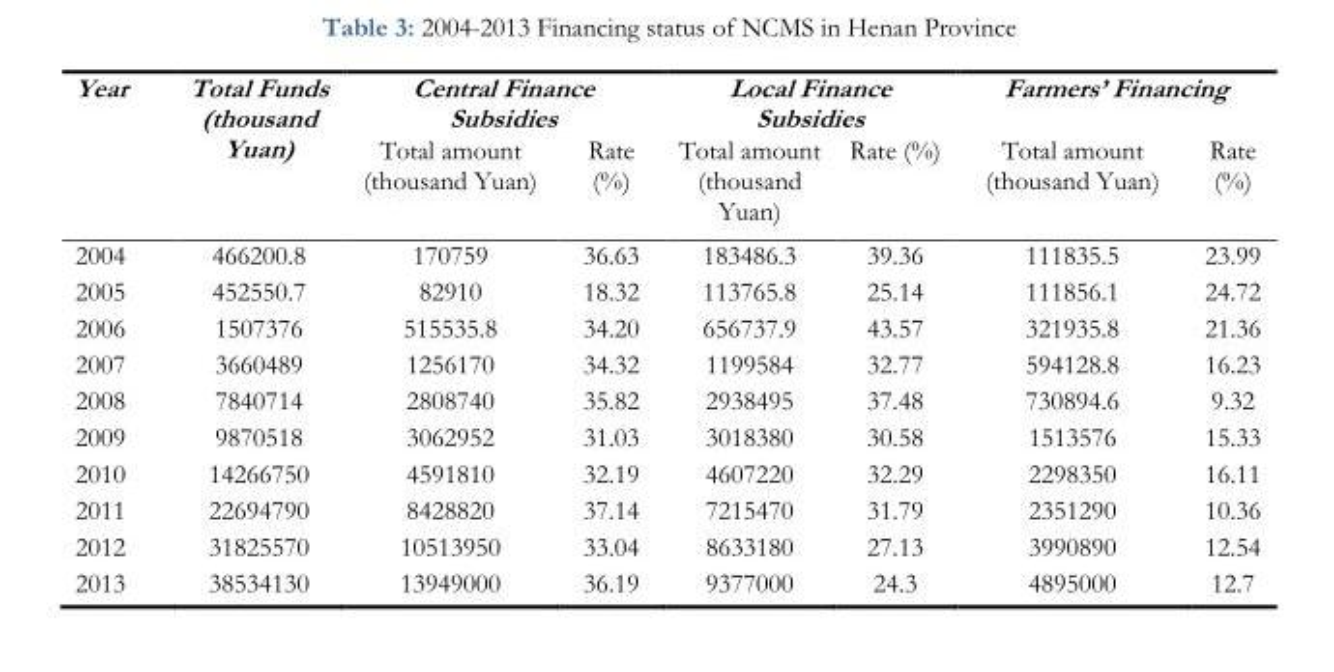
<table><thead><tr><td rowspan="2">Year</td><td rowspan="2">Total Funds (thousand Yuan)</td><td colspan="2">Central Finance Subsidies</td><td colspan="2">Local Finance Subsidies</td><td colspan="2">Farmers’ Financing</td></tr><tr><td>Total amount (thousand Yuan)</td><td>Rate (%)</td><td>Total amount (thousand Yuan)</td><td>Rate (%)</td><td>Total amount (thousand Yuan)</td><td>Rate (%)</td></tr></thead><tbody><tr><td>2004</td><td>466200.8</td><td>170759</td><td>36.63</td><td>183486.3</td><td>39.36</td><td>111835.5</td><td>23.99</td></tr><tr><td>2005</td><td>452550.7</td><td>82910</td><td>18.32</td><td>113765.8</td><td>25.14</td><td>111856.1</td><td>24.72</td></tr><tr><td>2006</td><td>1507376</td><td>515535.8</td><td>34.20</td><td>656737.9</td><td>43.57</td><td>321935.8</td><td>21.36</td></tr><tr><td>2007</td><td>3660489</td><td>1256170</td><td>34.32</td><td>1199584</td><td>32.77</td><td>594128.8</td><td>16.23</td></tr><tr><td>2008</td><td>7840714</td><td>2808740</td><td>35.82</td><td>2938495</td><td>37.48</td><td>730894.6</td><td>9.32</td></tr><tr><td>2009</td><td>9870518</td><td>3062952</td><td>31.03</td><td>3018380</td><td>30.58</td><td>1513576</td><td>15.33</td></tr><tr><td>2010</td><td>14266750</td><td>4591810</td><td>32.19</td><td>4607220</td><td>32.29</td><td>2298350</td><td>16.11</td></tr><tr><td>2011</td><td>22694790</td><td>8428820</td><td>37.14</td><td>7215470</td><td>31.79</td><td>2351290</td><td>10.36</td></tr><tr><td>2012</td><td>31825570</td><td>10513950</td><td>33.04</td><td>8633180</td><td>27.13</td><td>3990890</td><td>12.54</td></tr><tr><td>2013</td><td>38534130</td><td>13949000</td><td>36.19</td><td>9377000</td><td>24.3</td><td>4895000</td><td>12.7</td></tr></tbody></table>